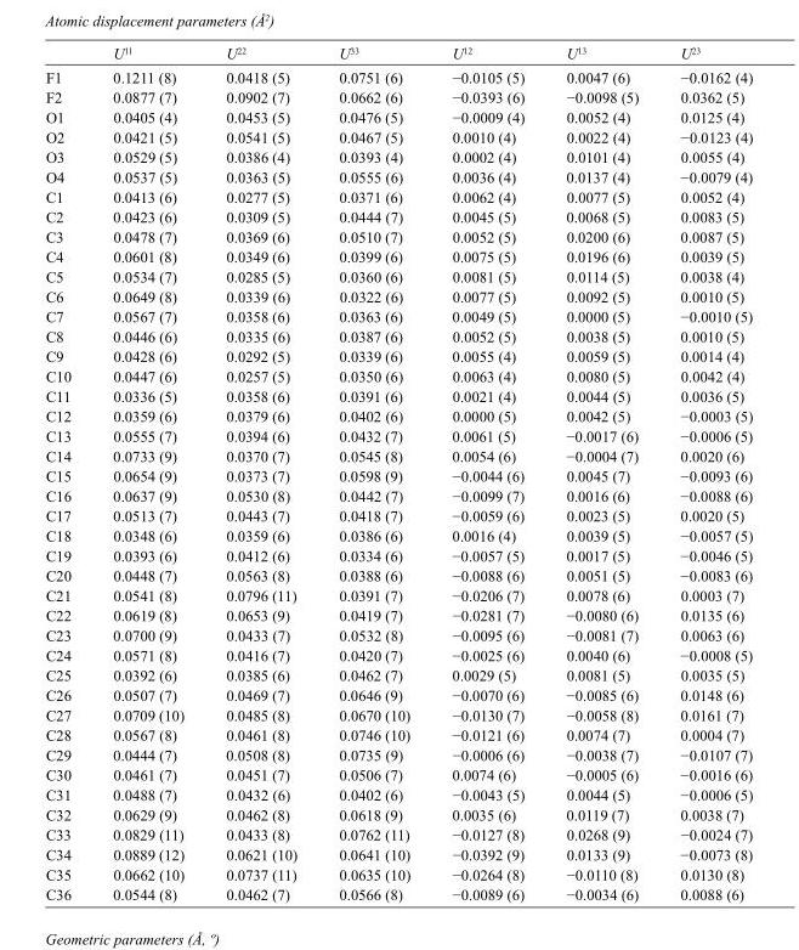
<table><thead><tr><td></td><td>U<sup>11</sup></td><td>U<sup>22</sup></td><td>U<sup>33</sup></td><td>U<sup>12</sup></td><td>U<sup>13</sup></td><td>U<sup>23</sup></td></tr></thead><tbody><tr><td>F1</td><td>0.1211 (8)</td><td>0.0418 (5)</td><td>0.0751 (6)</td><td>−0.0105 (5)</td><td>0.0047 (6)</td><td>−0.0162 (4)</td></tr><tr><td>F2</td><td>0.0877 (7)</td><td>0.0902 (7)</td><td>0.0662 (6)</td><td>−0.0393 (6)</td><td>−0.0098 (5)</td><td>0.0362 (5)</td></tr><tr><td>O1</td><td>0.0405 (4)</td><td>0.0453 (5)</td><td>0.0476 (5)</td><td>−0.0009 (4)</td><td>0.0052 (4)</td><td>0.0125 (4)</td></tr><tr><td>O2</td><td>0.0421 (5)</td><td>0.0541 (5)</td><td>0.0467 (5)</td><td>0.0010 (4)</td><td>0.0022 (4)</td><td>−0.0123 (4)</td></tr><tr><td>O3</td><td>0.0529 (5)</td><td>0.0386 (4)</td><td>0.0393 (4)</td><td>0.0002 (4)</td><td>0.0101 (4)</td><td>0.0055 (4)</td></tr><tr><td>O4</td><td>0.0537 (5)</td><td>0.0363 (5)</td><td>0.0555 (6)</td><td>0.0036 (4)</td><td>0.0137 (4)</td><td>−0.0079 (4)</td></tr><tr><td>C1</td><td>0.0413 (6)</td><td>0.0277 (5)</td><td>0.0371 (6)</td><td>0.0062 (4)</td><td>0.0077 (5)</td><td>0.0052 (4)</td></tr><tr><td>C2</td><td>0.0423 (6)</td><td>0.0309 (5)</td><td>0.0444 (7)</td><td>0.0045 (5)</td><td>0.0068 (5)</td><td>0.0083 (5)</td></tr><tr><td>C3</td><td>0.0478 (7)</td><td>0.0369 (6)</td><td>0.0510 (7)</td><td>0.0052 (5)</td><td>0.0200 (6)</td><td>0.0087 (5)</td></tr><tr><td>C4</td><td>0.0601 (8)</td><td>0.0349 (6)</td><td>0.0399 (6)</td><td>0.0075 (5)</td><td>0.0196 (6)</td><td>0.0039 (5)</td></tr><tr><td>C5</td><td>0.0534 (7)</td><td>0.0285 (5)</td><td>0.0360 (6)</td><td>0.0081 (5)</td><td>0.0114 (5)</td><td>0.0038 (4)</td></tr><tr><td>C6</td><td>0.0649 (8)</td><td>0.0339 (6)</td><td>0.0322 (6)</td><td>0.0077 (5)</td><td>0.0092 (5)</td><td>0.0010 (5)</td></tr><tr><td>C7</td><td>0.0567 (7)</td><td>0.0358 (6)</td><td>0.0363 (6)</td><td>0.0049 (5)</td><td>0.0000 (5)</td><td>−0.0010 (5)</td></tr><tr><td>C8</td><td>0.0446 (6)</td><td>0.0335 (6)</td><td>0.0387 (6)</td><td>0.0052 (5)</td><td>0.0038 (5)</td><td>0.0010 (5)</td></tr><tr><td>C9</td><td>0.0428 (6)</td><td>0.0292 (5)</td><td>0.0339 (6)</td><td>0.0055 (4)</td><td>0.0059 (5)</td><td>0.0014 (4)</td></tr><tr><td>C10</td><td>0.0447 (6)</td><td>0.0257 (5)</td><td>0.0350 (6)</td><td>0.0063 (4)</td><td>0.0080 (5)</td><td>0.0042 (4)</td></tr><tr><td>C11</td><td>0.0336 (5)</td><td>0.0358 (6)</td><td>0.0391 (6)</td><td>0.0021 (4)</td><td>0.0044 (5)</td><td>0.0036 (5)</td></tr><tr><td>C12</td><td>0.0359 (6)</td><td>0.0379 (6)</td><td>0.0402 (6)</td><td>0.0000 (5)</td><td>0.0042 (5)</td><td>−0.0003 (5)</td></tr><tr><td>C13</td><td>0.0555 (7)</td><td>0.0394 (6)</td><td>0.0432 (7)</td><td>0.0061 (5)</td><td>−0.0017 (6)</td><td>−0.0006 (5)</td></tr><tr><td>C14</td><td>0.0733 (9)</td><td>0.0370 (7)</td><td>0.0545 (8)</td><td>0.0054 (6)</td><td>−0.0004 (7)</td><td>0.0020 (6)</td></tr><tr><td>C15</td><td>0.0654 (9)</td><td>0.0373 (7)</td><td>0.0598 (9)</td><td>−0.0044 (6)</td><td>0.0045 (7)</td><td>−0.0093 (6)</td></tr><tr><td>C16</td><td>0.0637 (9)</td><td>0.0530 (8)</td><td>0.0442 (7)</td><td>−0.0099 (7)</td><td>0.0016 (6)</td><td>−0.0088 (6)</td></tr><tr><td>C17</td><td>0.0513 (7)</td><td>0.0443 (7)</td><td>0.0418 (7)</td><td>−0.0059 (6)</td><td>0.0023 (5)</td><td>0.0020 (5)</td></tr><tr><td>C18</td><td>0.0348 (6)</td><td>0.0359 (6)</td><td>0.0386 (6)</td><td>0.0016 (4)</td><td>0.0039 (5)</td><td>−0.0057 (5)</td></tr><tr><td>C19</td><td>0.0393 (6)</td><td>0.0412 (6)</td><td>0.0334 (6)</td><td>−0.0057 (5)</td><td>0.0017 (5)</td><td>−0.0046 (5)</td></tr><tr><td>C20</td><td>0.0448 (7)</td><td>0.0563 (8)</td><td>0.0388 (6)</td><td>−0.0088 (6)</td><td>0.0051 (5)</td><td>−0.0083 (6)</td></tr><tr><td>C21</td><td>0.0541 (8)</td><td>0.0796 (11)</td><td>0.0391 (7)</td><td>−0.0206 (7)</td><td>0.0078 (6)</td><td>0.0003 (7)</td></tr><tr><td>C22</td><td>0.0619 (8)</td><td>0.0653 (9)</td><td>0.0419 (7)</td><td>−0.0281 (7)</td><td>−0.0080 (6)</td><td>0.0135 (6)</td></tr><tr><td>C23</td><td>0.0700 (9)</td><td>0.0433 (7)</td><td>0.0532 (8)</td><td>−0.0095 (6)</td><td>−0.0081 (7)</td><td>0.0063 (6)</td></tr><tr><td>C24</td><td>0.0571 (8)</td><td>0.0416 (7)</td><td>0.0420 (7)</td><td>−0.0025 (6)</td><td>0.0040 (6)</td><td>−0.0008 (5)</td></tr><tr><td>C25</td><td>0.0392 (6)</td><td>0.0385 (6)</td><td>0.0462 (7)</td><td>0.0029 (5)</td><td>0.0081 (5)</td><td>0.0035 (5)</td></tr><tr><td>C26</td><td>0.0507 (7)</td><td>0.0469 (7)</td><td>0.0646 (9)</td><td>−0.0070 (6)</td><td>−0.0085 (6)</td><td>0.0148 (6)</td></tr><tr><td>C27</td><td>0.0709 (10)</td><td>0.0485 (8)</td><td>0.0670 (10)</td><td>−0.0130 (7)</td><td>−0.0058 (8)</td><td>0.0161 (7)</td></tr><tr><td>C28</td><td>0.0567 (8)</td><td>0.0461 (8)</td><td>0.0746 (10)</td><td>−0.0121 (6)</td><td>0.0074 (7)</td><td>0.0004 (7)</td></tr><tr><td>C29</td><td>0.0444 (7)</td><td>0.0508 (8)</td><td>0.0735 (9)</td><td>−0.0006 (6)</td><td>−0.0038 (7)</td><td>−0.0107 (7)</td></tr><tr><td>C30</td><td>0.0461 (7)</td><td>0.0451 (7)</td><td>0.0506 (7)</td><td>0.0074 (6)</td><td>−0.0005 (6)</td><td>−0.0016 (6)</td></tr><tr><td>C31</td><td>0.0488 (7)</td><td>0.0432 (6)</td><td>0.0402 (6)</td><td>−0.0043 (5)</td><td>0.0044 (5)</td><td>−0.0006 (5)</td></tr><tr><td>C32</td><td>0.0629 (9)</td><td>0.0462 (8)</td><td>0.0618 (9)</td><td>0.0035 (6)</td><td>0.0119 (7)</td><td>0.0038 (7)</td></tr><tr><td>C33</td><td>0.0829 (11)</td><td>0.0433 (8)</td><td>0.0762 (11)</td><td>−0.0127 (8)</td><td>0.0268 (9)</td><td>−0.0024 (7)</td></tr><tr><td>C34</td><td>0.0889 (12)</td><td>0.0621 (10)</td><td>0.0641 (10)</td><td>−0.0392 (9)</td><td>0.0133 (9)</td><td>−0.0073 (8)</td></tr><tr><td>C35</td><td>0.0662 (10)</td><td>0.0737 (11)</td><td>0.0635 (10)</td><td>−0.0264 (8)</td><td>−0.0110 (8)</td><td>0.0130 (8)</td></tr><tr><td>C36</td><td>0.0544 (8)</td><td>0.0462 (7)</td><td>0.0566 (8)</td><td>−0.0089 (6)</td><td>−0.0034 (6)</td><td>0.0088 (6)</td></tr></tbody></table>